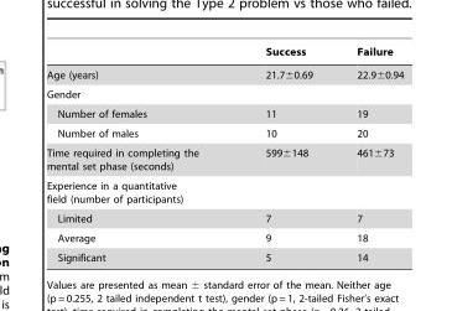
<table><thead><tr><td></td><td>Success</td><td>Failure</td></tr></thead><tbody><tr><td>Age (years)</td><td>21.7±0.69</td><td>22.9±0.94</td></tr><tr><td colspan="3">Gender</td></tr><tr><td>Number of females</td><td>11</td><td>19</td></tr><tr><td>Number of males</td><td>10</td><td>20</td></tr><tr><td>Time required in completing the mental set phase (seconds)</td><td>599±148</td><td>461±73</td></tr><tr><td colspan="3">Experience in a quantitative field (number of participants)</td></tr><tr><td>Limited</td><td>7</td><td>7</td></tr><tr><td>Average</td><td>9</td><td>18</td></tr><tr><td>Significant</td><td>5</td><td>14</td></tr></tbody></table>